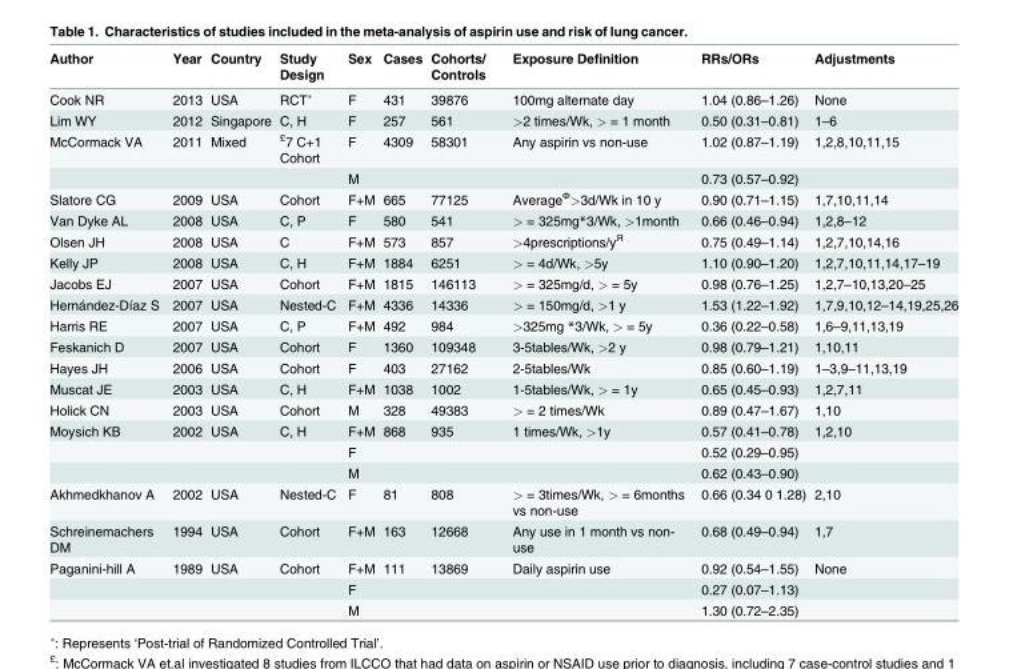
<table><thead><tr><td>Author</td><td>Year</td><td>Country</td><td>Study Design</td><td>Sex</td><td>Cases</td><td>Cohorts/ Controls</td><td>Exposure Definition</td><td>RRs/ORs</td><td>Adjustments</td></tr></thead><tbody><tr><td>Cook NR</td><td>2013</td><td>USA</td><td>RCT∗</td><td>F</td><td>431</td><td>39876</td><td>100mg alternate day</td><td>1.04 (0.86–1.26)</td><td>None</td></tr><tr><td>Lim WY</td><td>2012</td><td>Singapore</td><td>C, H</td><td>F</td><td>257</td><td>561</td><td>&gt;2 times/Wk, &gt; = 1 month</td><td>0.50 (0.31–0.81)</td><td>1–6</td></tr><tr><td rowspan="2">McCormack VA</td><td>2011</td><td>Mixed</td><td><sup>£</sup>7 C+1 Cohort</td><td>F</td><td>4309</td><td>58301</td><td>Any aspirin vs non-use</td><td>1.02 (0.87–1.19)</td><td>1,2,8,10,11,15</td></tr><tr><td></td><td></td><td></td><td>M</td><td></td><td></td><td></td><td>0.73 (0.57–0.92)</td><td></td></tr><tr><td>Slatore CG</td><td>2009</td><td>USA</td><td>Cohort</td><td>F+M</td><td>665</td><td>77125</td><td>Average<sup>Ф</sup>&gt;3d/Wk in 10 y</td><td>0.90 (0.71–1.15)</td><td>1,7,10,11,14</td></tr><tr><td>Van Dyke AL</td><td>2008</td><td>USA</td><td>C, P</td><td>F</td><td>580</td><td>541</td><td>&gt; = 325mg*3/Wk, &gt;1month</td><td>0.66 (0.46–0.94)</td><td>1,2,8–12</td></tr><tr><td>Olsen JH</td><td>2008</td><td>USA</td><td>C</td><td>F+M</td><td>573</td><td>857</td><td>&gt;4prescriptions/y<sup>Я</sup></td><td>0.75 (0.49–1.14)</td><td>1,2,7,10,14,16</td></tr><tr><td>Kelly JP</td><td>2008</td><td>USA</td><td>C, H</td><td>F+M</td><td>1884</td><td>6251</td><td>&gt; = 4d/Wk, &gt;5y</td><td>1.10 (0.90–1.20)</td><td>1,2,7,10,11,14,17–19</td></tr><tr><td>Jacobs EJ</td><td>2007</td><td>USA</td><td>Cohort</td><td>F+M</td><td>1815</td><td>146113</td><td>&gt; = 325mg/d, &gt; = 5y</td><td>0.98 (0.76–1.25)</td><td>1,2,7–10,13,20–25</td></tr><tr><td>Hernández-Díaz S</td><td>2007</td><td>USA</td><td>Nested-C</td><td>F+M</td><td>4336</td><td>14336</td><td>&gt; = 150mg/d, &gt;1 y</td><td>1.53 (1.22–1.92)</td><td>1,7,9,10,12–14,19,25,26</td></tr><tr><td>Harris RE</td><td>2007</td><td>USA</td><td>C, P</td><td>F+M</td><td>492</td><td>984</td><td>&gt;325mg *3/Wk, &gt; = 5y</td><td>0.36 (0.22–0.58)</td><td>1,6–9,11,13,19</td></tr><tr><td>Feskanich D</td><td>2007</td><td>USA</td><td>Cohort</td><td>F</td><td>1360</td><td>109348</td><td>3-5tables/Wk, &gt;2 y</td><td>0.98 (0.79–1.21)</td><td>1,10,11</td></tr><tr><td>Hayes JH</td><td>2006</td><td>USA</td><td>Cohort</td><td>F</td><td>403</td><td>27162</td><td>2-5tables/Wk</td><td>0.85 (0.60–1.19)</td><td>1–3,9–11,13,19</td></tr><tr><td>Muscat JE</td><td>2003</td><td>USA</td><td>C, H</td><td>F+M</td><td>1038</td><td>1002</td><td>1-5tables/Wk, &gt; = 1y</td><td>0.65 (0.45–0.93)</td><td>1,2,7,11</td></tr><tr><td>Holick CN</td><td>2003</td><td>USA</td><td>Cohort</td><td>M</td><td>328</td><td>49383</td><td>&gt; = 2 times/Wk</td><td>0.89 (0.47–1.67)</td><td>1,10</td></tr><tr><td rowspan="3">Moysich KB</td><td>2002</td><td>USA</td><td>C, H</td><td>F+M</td><td>868</td><td>935</td><td>1 times/Wk, &gt;1y</td><td>0.57 (0.41–0.78)</td><td>1,2,10</td></tr><tr><td></td><td></td><td></td><td>F</td><td></td><td></td><td></td><td>0.52 (0.29–0.95)</td><td></td></tr><tr><td></td><td></td><td></td><td>M</td><td></td><td></td><td></td><td>0.62 (0.43–0.90)</td><td></td></tr><tr><td>Akhmedkhanov A</td><td>2002</td><td>USA</td><td>Nested-C</td><td>F</td><td>81</td><td>808</td><td>&gt; = 3times/Wk, &gt; = 6months vs non-use</td><td>0.66 (0.34 0 1.28)</td><td>2,10</td></tr><tr><td>Schreinemachers DM</td><td>1994</td><td>USA</td><td>Cohort</td><td>F+M</td><td>163</td><td>12668</td><td>Any use in 1 month vs non- use</td><td>0.68 (0.49–0.94)</td><td>1,7</td></tr><tr><td rowspan="3">Paganini-hill A</td><td>1989</td><td>USA</td><td>Cohort</td><td>F+M</td><td>111</td><td>13869</td><td>Daily aspirin use</td><td>0.92 (0.54–1.55)</td><td>None</td></tr><tr><td></td><td></td><td></td><td>F</td><td></td><td></td><td></td><td>0.27 (0.07–1.13)</td><td></td></tr><tr><td></td><td></td><td></td><td>M</td><td></td><td></td><td></td><td>1.30 (0.72–2.35)</td><td></td></tr></tbody></table>